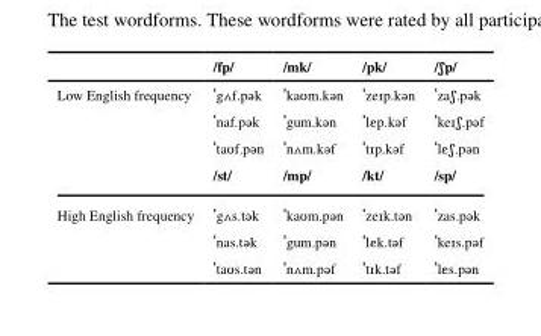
<table><thead><tr><td></td><td>/fp/</td><td>/mk/</td><td>/pk/</td><td>/ʃp/</td></tr></thead><tbody><tr><td rowspan="4">Low English frequency</td><td>ˈgʌf.pək</td><td>ˈkaʊm.kən</td><td>ˈzeɪp.kən</td><td>ˈzaʃ.pək</td></tr><tr><td>ˈnaf.pək</td><td>ˈgum.kən</td><td>ˈlεp.kəf</td><td>ˈkeɪʃ.pəf</td></tr><tr><td>ˈtaʊf.pən</td><td>ˈnʌm.kəf</td><td>ˈtɪp.kəf</td><td>ˈlεʃ.pən</td></tr><tr><td>/st/</td><td>/mp/</td><td>/kt/</td><td>/sp/</td></tr><tr><td rowspan="3">High English frequency</td><td>ˈgʌs.tək</td><td>ˈkaʊm.pən</td><td>ˈzeɪk.tən</td><td>ˈzas.pək</td></tr><tr><td>ˈnas.tək</td><td>ˈgum.pən</td><td>ˈlεk.təf</td><td>ˈkeɪs.pəf</td></tr><tr><td>ˈtaʊs.tən</td><td>ˈnʌm.pəf</td><td>ˈtɪk.təf</td><td>ˈlεs.pən</td></tr></tbody></table>